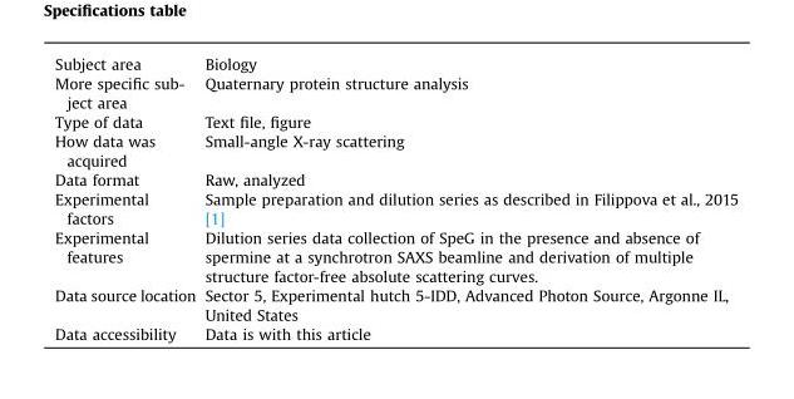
<table><tbody><tr><td>Subject area</td><td>Biology</td></tr><tr><td>More specific sub- ject area</td><td>Quaternary protein structure analysis</td></tr><tr><td>Type of data</td><td>Text file, figure</td></tr><tr><td>How data was acquired</td><td>Small-angle X-ray scattering</td></tr><tr><td>Data format</td><td>Raw, analyzed</td></tr><tr><td>Experimental factors</td><td>Sample preparation and dilution series as described in Filippova et al., 2015 [1]</td></tr><tr><td>Experimental features</td><td>Dilution series data collection of SpeG in the presence and absence of spermine at a synchrotron SAXS beamline and derivation of multiple structure factor-free absolute scattering curves.</td></tr><tr><td>Data source location</td><td>Sector 5, Experimental hutch 5-IDD, Advanced Photon Source, Argonne IL, United States</td></tr><tr><td>Data accessibility</td><td>Data is with this article</td></tr></tbody></table>